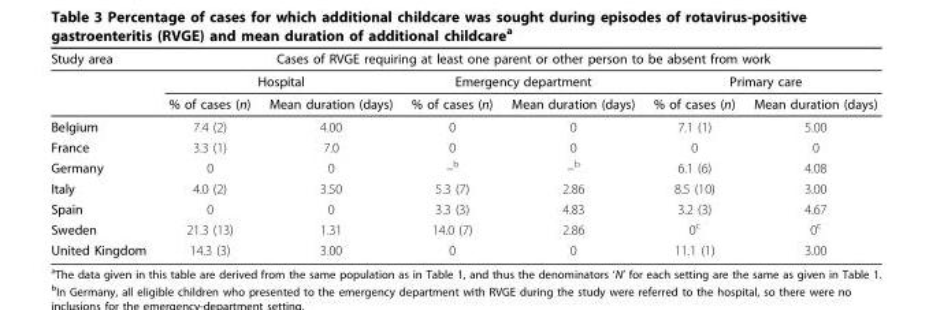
<table><thead><tr><td rowspan="3">Study area</td><td colspan="6">Cases of RVGE requiring at least one parent or other person to be absent from work</td></tr><tr><td colspan="2">Hospital</td><td colspan="2">Emergency department</td><td colspan="2">Primary care</td></tr><tr><td>% of cases (n)</td><td>Mean duration (days)</td><td>% of cases (n)</td><td>Mean duration (days)</td><td>% of cases (n)</td><td>Mean duration (days)</td></tr></thead><tbody><tr><td>Belgium</td><td>7.4 (2)</td><td>4.00</td><td>0</td><td>0</td><td>7.1 (1)</td><td>5.00</td></tr><tr><td>France</td><td>3.3 (1)</td><td>7.0</td><td>0</td><td>0</td><td>0</td><td>0</td></tr><tr><td>Germany</td><td>0</td><td>0</td><td>–b</td><td>–b</td><td>6.1 (6)</td><td>4.08</td></tr><tr><td>Italy</td><td>4.0 (2)</td><td>3.50</td><td>5.3 (7)</td><td>2.86</td><td>8.5 (10)</td><td>3.00</td></tr><tr><td>Spain</td><td>0</td><td>0</td><td>3.3 (3)</td><td>4.83</td><td>3.2 (3)</td><td>4.67</td></tr><tr><td>Sweden</td><td>21.3 (13)</td><td>1.31</td><td>14.0 (7)</td><td>2.86</td><td>0<sup>c</sup></td><td>0<sup>c</sup></td></tr><tr><td>United Kingdom</td><td>14.3 (3)</td><td>3.00</td><td>0</td><td>0</td><td>11.1 (1)</td><td>3.00</td></tr></tbody></table>